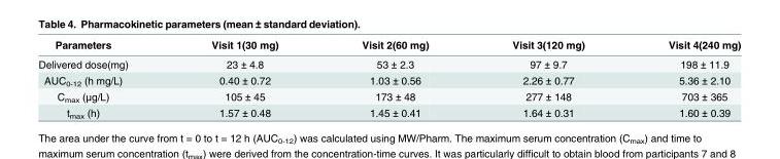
<table><thead><tr><td>Parameters</td><td>Visit 1(30 mg)</td><td>Visit 2(60 mg)</td><td>Visit 3(120 mg)</td><td>Visit 4(240 mg)</td></tr></thead><tbody><tr><td>Delivered dose(mg)</td><td>23 ± 4.8</td><td>53 ± 2.3</td><td>97 ± 9.7</td><td>198 ± 11.9</td></tr><tr><td>AUC<sub>0-12</sub> (h mg/L)</td><td>0.40 ± 0.72</td><td>1.03 ± 0.56</td><td>2.26 ± 0.77</td><td>5.36 ± 2.10</td></tr><tr><td>C<sub>max</sub> (μg/L)</td><td>105 ± 45</td><td>173 ± 48</td><td>277 ± 148</td><td>703 ± 365</td></tr><tr><td>t<sub>max</sub> (h)</td><td>1.57 ± 0.48</td><td>1.45 ± 0.41</td><td>1.64 ± 0.31</td><td>1.60 ± 0.39</td></tr></tbody></table>